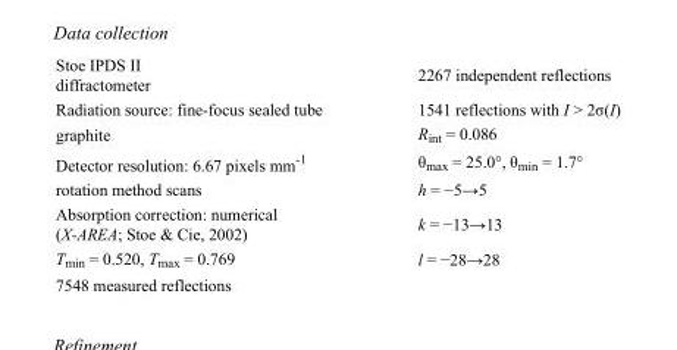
<table><tbody><tr><td>Stoe IPDS II diffractometer</td><td>2267 independent reflections</td></tr><tr><td>Radiation source: fine-focus sealed tube</td><td>1541 reflections with I &gt; 2σ(I)</td></tr><tr><td>graphite</td><td>R<sub>int</sub> = 0.086</td></tr><tr><td>Detector resolution: 6.67 pixels mm<sup>-1</sup></td><td>θ<sub>max</sub> = 25.0°, θ<sub>min</sub> = 1.7°</td></tr><tr><td>rotation method scans</td><td>h = −5→5</td></tr><tr><td>Absorption correction: numerical (X-AREA; Stoe &amp; Cie, 2002)</td><td>k = −13→13</td></tr><tr><td>T<sub>min</sub> = 0.520, T<sub>max</sub> = 0.769</td><td>l = −28→28</td></tr><tr><td>7548 measured reflections</td><td></td></tr></tbody></table>